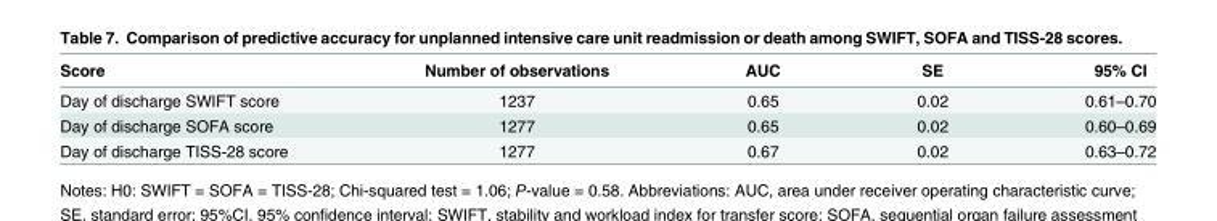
<table><thead><tr><td>Score</td><td>Number of observations</td><td>AUC</td><td>SE</td><td>95% CI</td></tr></thead><tbody><tr><td>Day of discharge SWIFT score</td><td>1237</td><td>0.65</td><td>0.02</td><td>0.61–0.70</td></tr><tr><td>Day of discharge SOFA score</td><td>1277</td><td>0.65</td><td>0.02</td><td>0.60–0.69</td></tr><tr><td>Day of discharge TISS-28 score</td><td>1277</td><td>0.67</td><td>0.02</td><td>0.63–0.72</td></tr></tbody></table>